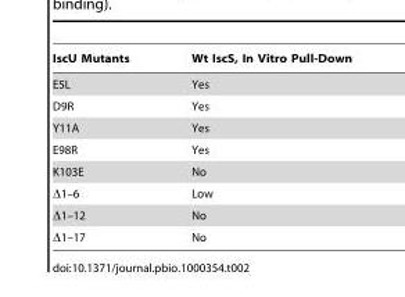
<table><thead><tr><td>IscU Mutants</td><td>Wt IscS, In Vitro Pull-Down</td></tr></thead><tbody><tr><td>E5L</td><td>Yes</td></tr><tr><td>D9R</td><td>Yes</td></tr><tr><td>Y11A</td><td>Yes</td></tr><tr><td>E98R</td><td>Yes</td></tr><tr><td>K103E</td><td>No</td></tr><tr><td>Δ1–6</td><td>Low</td></tr><tr><td>Δ1–12</td><td>No</td></tr><tr><td>Δ1–17</td><td>No</td></tr></tbody></table>